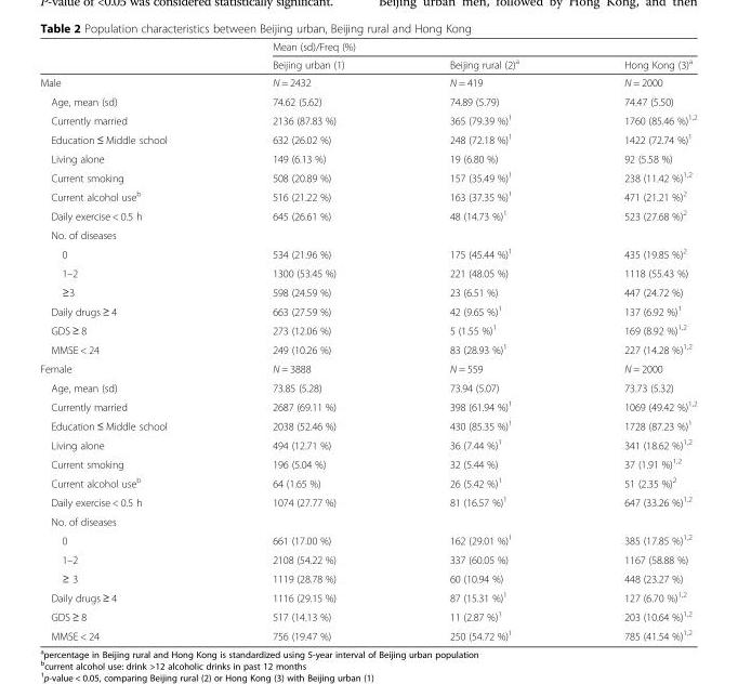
<table><thead><tr><td rowspan="2"></td><td colspan="3">Mean (sd)/Freq (%)</td></tr><tr><td>Beijing urban (1)</td><td>Beijing rural (2)<sup>a</sup></td><td>Hong Kong (3)<sup>a</sup></td></tr></thead><tbody><tr><td>Male</td><td>N = 2432</td><td>N = 419</td><td>N = 2000</td></tr><tr><td>Age, mean (sd)</td><td>74.62 (5.62)</td><td>74.89 (5.79)</td><td>74.47 (5.50)</td></tr><tr><td>Currently married</td><td>2136 (87.83 %)</td><td>365 (79.39 %)<sup>1</sup></td><td>1760 (85.46 %)<sup>1,2</sup></td></tr><tr><td>Education ≤ Middle school</td><td>632 (26.02 %)</td><td>248 (72.18 %)<sup>1</sup></td><td>1422 (72.74 %)<sup>1</sup></td></tr><tr><td>Living alone</td><td>149 (6.13 %)</td><td>19 (6.80 %)</td><td>92 (5.58 %)</td></tr><tr><td>Current smoking</td><td>508 (20.89 %)</td><td>157 (35.49 %)<sup>1</sup></td><td>238 (11.42 %)<sup>1,2</sup></td></tr><tr><td>Current alcohol use<sup>b</sup></td><td>516 (21.22 %)</td><td>163 (37.35 %)<sup>1</sup></td><td>471 (21.21 %)<sup>2</sup></td></tr><tr><td>Daily exercise &lt; 0.5 h</td><td>645 (26.61 %)</td><td>48 (14.73 %)<sup>1</sup></td><td>523 (27.68 %)<sup>2</sup></td></tr><tr><td colspan="4">No. of diseases</td></tr><tr><td>0</td><td>534 (21.96 %)</td><td>175 (45.44 %)<sup>1</sup></td><td>435 (19.85 %)<sup>2</sup></td></tr><tr><td>1–2</td><td>1300 (53.45 %)</td><td>221 (48.05 %)</td><td>1118 (55.43 %)</td></tr><tr><td>≥3</td><td>598 (24.59 %)</td><td>23 (6.51 %)</td><td>447 (24.72 %)</td></tr><tr><td>Daily drugs ≥ 4</td><td>663 (27.59 %)</td><td>42 (9.65 %)<sup>1</sup></td><td>137 (6.92 %)<sup>1</sup></td></tr><tr><td>GDS ≥ 8</td><td>273 (12.06 %)</td><td>5 (1.55 %)<sup>1</sup></td><td>169 (8.92 %)<sup>1,2</sup></td></tr><tr><td>MMSE &lt; 24</td><td>249 (10.26 %)</td><td>83 (28.93 %)<sup>1</sup></td><td>227 (14.28 %)<sup>1,2</sup></td></tr><tr><td>Female</td><td>N = 3888</td><td>N = 559</td><td>N = 2000</td></tr><tr><td>Age, mean (sd)</td><td>73.85 (5.28)</td><td>73.94 (5.07)</td><td>73.73 (5.32)</td></tr><tr><td>Currently married</td><td>2687 (69.11 %)</td><td>398 (61.94 %)<sup>1</sup></td><td>1069 (49.42 %)<sup>1,2</sup></td></tr><tr><td>Education ≤ Middle school</td><td>2038 (52.46 %)</td><td>430 (85.35 %)<sup>1</sup></td><td>1728 (87.23 %)<sup>1</sup></td></tr><tr><td>Living alone</td><td>494 (12.71 %)</td><td>36 (7.44 %)<sup>1</sup></td><td>341 (18.62 %)<sup>1,2</sup></td></tr><tr><td>Current smoking</td><td>196 (5.04 %)</td><td>32 (5.44 %)</td><td>37 (1.91 %)<sup>1,2</sup></td></tr><tr><td>Current alcohol use<sup>b</sup></td><td>64 (1.65 %)</td><td>26 (5.42 %)<sup>1</sup></td><td>51 (2.35 %)<sup>2</sup></td></tr><tr><td>Daily exercise &lt; 0.5 h</td><td>1074 (27.77 %)</td><td>81 (16.57 %)<sup>1</sup></td><td>647 (33.26 %)<sup>1,2</sup></td></tr><tr><td colspan="4">No. of diseases</td></tr><tr><td>0</td><td>661 (17.00 %)</td><td>162 (29.01 %)<sup>1</sup></td><td>385 (17.85 %)<sup>1,2</sup></td></tr><tr><td>1–2</td><td>2108 (54.22 %)</td><td>337 (60.05 %)</td><td>1167 (58.88 %)</td></tr><tr><td>≥ 3</td><td>1119 (28.78 %)</td><td>60 (10.94 %)</td><td>448 (23.27 %)</td></tr><tr><td>Daily drugs ≥ 4</td><td>1116 (29.15 %)</td><td>87 (15.31 %)<sup>1</sup></td><td>127 (6.70 %)<sup>1,2</sup></td></tr><tr><td>GDS ≥ 8</td><td>517 (14.13 %)</td><td>11 (2.87 %)<sup>1</sup></td><td>203 (10.64 %)<sup>1,2</sup></td></tr><tr><td>MMSE &lt; 24</td><td>756 (19.47 %)</td><td>250 (54.72 %)<sup>1</sup></td><td>785 (41.54 %)<sup>1,2</sup></td></tr></tbody></table>